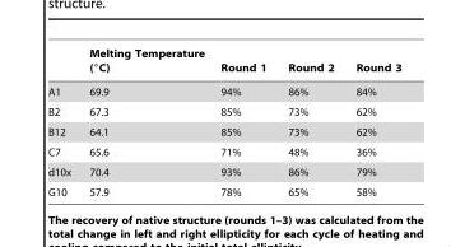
<table><thead><tr><td></td><td>Melting Temperature (°C)</td><td>Round 1</td><td>Round 2</td><td>Round 3</td></tr></thead><tbody><tr><td>A1</td><td>69.9</td><td>94%</td><td>86%</td><td>84%</td></tr><tr><td>B2</td><td>67.3</td><td>85%</td><td>73%</td><td>62%</td></tr><tr><td>B12</td><td>64.1</td><td>85%</td><td>73%</td><td>62%</td></tr><tr><td>C7</td><td>65.6</td><td>71%</td><td>48%</td><td>36%</td></tr><tr><td>d10x</td><td>70.4</td><td>93%</td><td>86%</td><td>79%</td></tr><tr><td>G10</td><td>57.9</td><td>78%</td><td>65%</td><td>58%</td></tr></tbody></table>